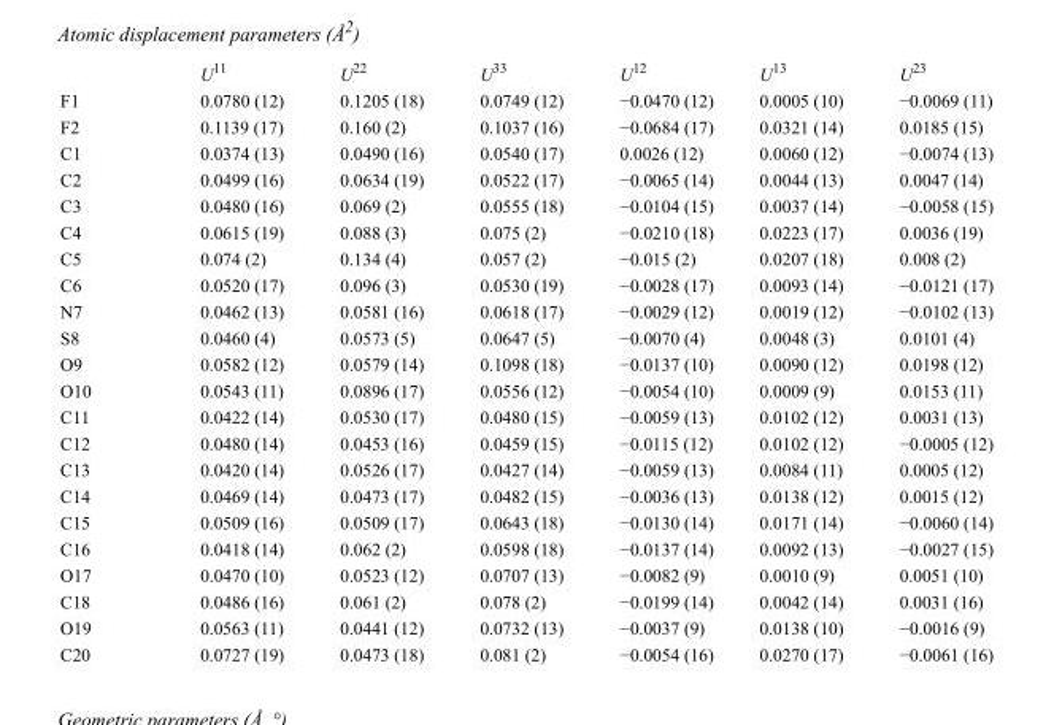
<table><thead><tr><td></td><td>U<sup>11</sup></td><td>U<sup>22</sup></td><td>U<sup>33</sup></td><td>U<sup>12</sup></td><td>U<sup>13</sup></td><td>U<sup>23</sup></td></tr></thead><tbody><tr><td>F1</td><td>0.0780 (12)</td><td>0.1205 (18)</td><td>0.0749 (12)</td><td>−0.0470 (12)</td><td>0.0005 (10)</td><td>−0.0069 (11)</td></tr><tr><td>F2</td><td>0.1139 (17)</td><td>0.160 (2)</td><td>0.1037 (16)</td><td>−0.0684 (17)</td><td>0.0321 (14)</td><td>0.0185 (15)</td></tr><tr><td>C1</td><td>0.0374 (13)</td><td>0.0490 (16)</td><td>0.0540 (17)</td><td>0.0026 (12)</td><td>0.0060 (12)</td><td>−0.0074 (13)</td></tr><tr><td>C2</td><td>0.0499 (16)</td><td>0.0634 (19)</td><td>0.0522 (17)</td><td>−0.0065 (14)</td><td>0.0044 (13)</td><td>0.0047 (14)</td></tr><tr><td>C3</td><td>0.0480 (16)</td><td>0.069 (2)</td><td>0.0555 (18)</td><td>−0.0104 (15)</td><td>0.0037 (14)</td><td>−0.0058 (15)</td></tr><tr><td>C4</td><td>0.0615 (19)</td><td>0.088 (3)</td><td>0.075 (2)</td><td>−0.0210 (18)</td><td>0.0223 (17)</td><td>0.0036 (19)</td></tr><tr><td>C5</td><td>0.074 (2)</td><td>0.134 (4)</td><td>0.057 (2)</td><td>−0.015 (2)</td><td>0.0207 (18)</td><td>0.008 (2)</td></tr><tr><td>C6</td><td>0.0520 (17)</td><td>0.096 (3)</td><td>0.0530 (19)</td><td>−0.0028 (17)</td><td>0.0093 (14)</td><td>−0.0121 (17)</td></tr><tr><td>N7</td><td>0.0462 (13)</td><td>0.0581 (16)</td><td>0.0618 (17)</td><td>−0.0029 (12)</td><td>0.0019 (12)</td><td>−0.0102 (13)</td></tr><tr><td>S8</td><td>0.0460 (4)</td><td>0.0573 (5)</td><td>0.0647 (5)</td><td>−0.0070 (4)</td><td>0.0048 (3)</td><td>0.0101 (4)</td></tr><tr><td>O9</td><td>0.0582 (12)</td><td>0.0579 (14)</td><td>0.1098 (18)</td><td>−0.0137 (10)</td><td>0.0090 (12)</td><td>0.0198 (12)</td></tr><tr><td>O10</td><td>0.0543 (11)</td><td>0.0896 (17)</td><td>0.0556 (12)</td><td>−0.0054 (10)</td><td>0.0009 (9)</td><td>0.0153 (11)</td></tr><tr><td>C11</td><td>0.0422 (14)</td><td>0.0530 (17)</td><td>0.0480 (15)</td><td>−0.0059 (13)</td><td>0.0102 (12)</td><td>0.0031 (13)</td></tr><tr><td>C12</td><td>0.0480 (14)</td><td>0.0453 (16)</td><td>0.0459 (15)</td><td>−0.0115 (12)</td><td>0.0102 (12)</td><td>−0.0005 (12)</td></tr><tr><td>C13</td><td>0.0420 (14)</td><td>0.0526 (17)</td><td>0.0427 (14)</td><td>−0.0059 (13)</td><td>0.0084 (11)</td><td>0.0005 (12)</td></tr><tr><td>C14</td><td>0.0469 (14)</td><td>0.0473 (17)</td><td>0.0482 (15)</td><td>−0.0036 (13)</td><td>0.0138 (12)</td><td>0.0015 (12)</td></tr><tr><td>C15</td><td>0.0509 (16)</td><td>0.0509 (17)</td><td>0.0643 (18)</td><td>−0.0130 (14)</td><td>0.0171 (14)</td><td>−0.0060 (14)</td></tr><tr><td>C16</td><td>0.0418 (14)</td><td>0.062 (2)</td><td>0.0598 (18)</td><td>−0.0137 (14)</td><td>0.0092 (13)</td><td>−0.0027 (15)</td></tr><tr><td>O17</td><td>0.0470 (10)</td><td>0.0523 (12)</td><td>0.0707 (13)</td><td>−0.0082 (9)</td><td>0.0010 (9)</td><td>0.0051 (10)</td></tr><tr><td>C18</td><td>0.0486 (16)</td><td>0.061 (2)</td><td>0.078 (2)</td><td>−0.0199 (14)</td><td>0.0042 (14)</td><td>0.0031 (16)</td></tr><tr><td>O19</td><td>0.0563 (11)</td><td>0.0441 (12)</td><td>0.0732 (13)</td><td>−0.0037 (9)</td><td>0.0138 (10)</td><td>−0.0016 (9)</td></tr><tr><td>C20</td><td>0.0727 (19)</td><td>0.0473 (18)</td><td>0.081 (2)</td><td>−0.0054 (16)</td><td>0.0270 (17)</td><td>−0.0061 (16)</td></tr></tbody></table>